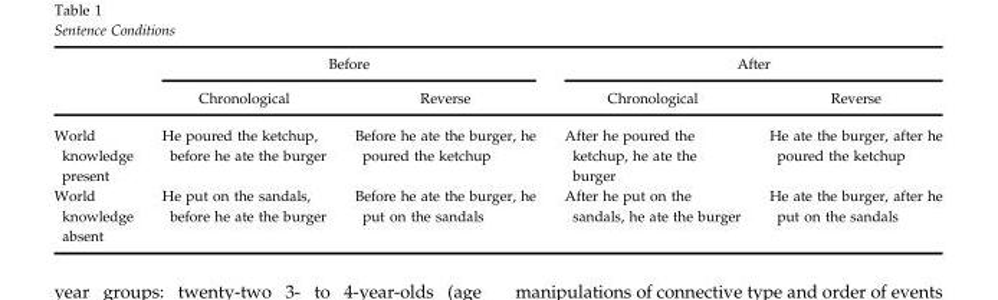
<table><thead><tr><td rowspan="2"></td><td colspan="2">Before</td><td colspan="2">After</td></tr><tr><td>Chronological</td><td>Reverse</td><td>Chronological</td><td>Reverse</td></tr></thead><tbody><tr><td>World knowledge present</td><td>He poured the ketchup, before he ate the burger</td><td>Before he ate the burger, he poured the ketchup</td><td>After he poured the ketchup, he ate the burger</td><td>He ate the burger, after he poured the ketchup</td></tr><tr><td>World knowledge absent</td><td>He put on the sandals, before he ate the burger</td><td>Before he ate the burger, he put on the sandals</td><td>After he put on the sandals, he ate the burger</td><td>He ate the burger, after he put on the sandals</td></tr></tbody></table>